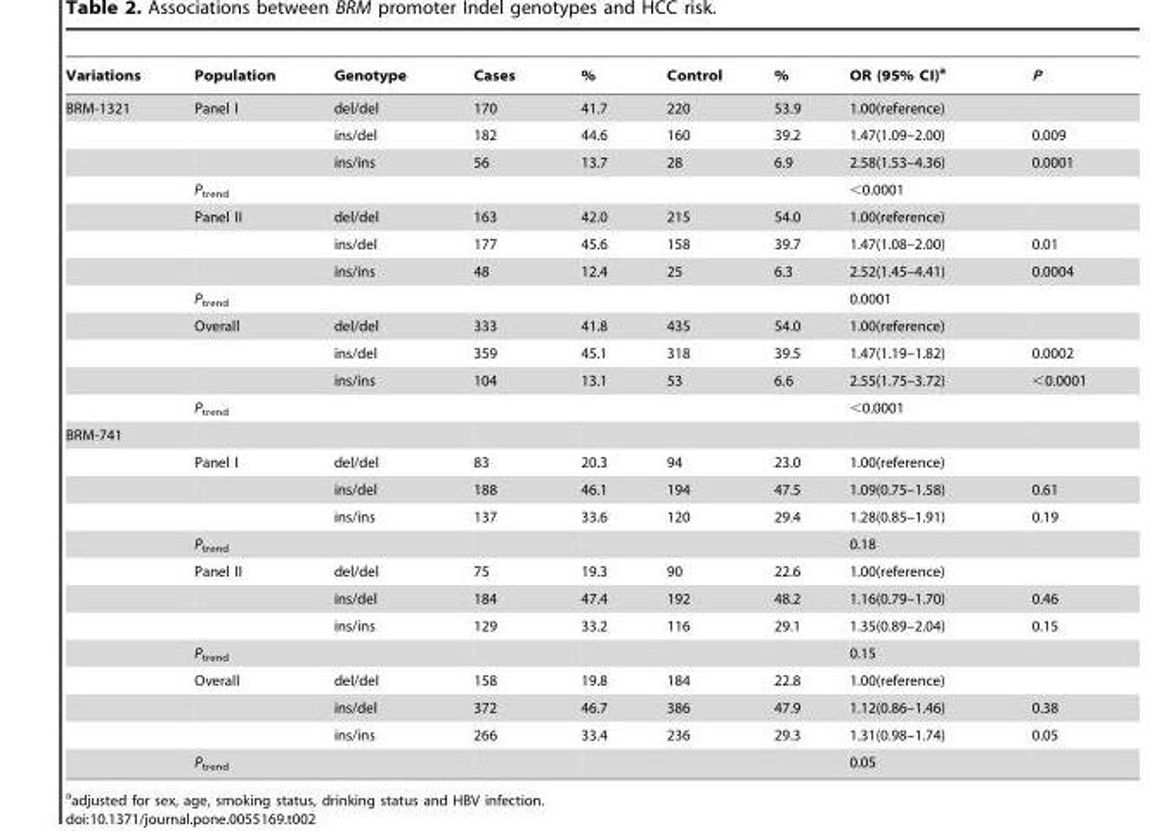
<table><thead><tr><td>Variations</td><td>Population</td><td>Genotype</td><td>Cases</td><td>%</td><td>Control</td><td>%</td><td>OR (95% CI)<sup>a</sup></td><td>P</td></tr></thead><tbody><tr><td rowspan="12">BRM-1321</td><td>Panel I</td><td>del/del</td><td>170</td><td>41.7</td><td>220</td><td>53.9</td><td>1.00(reference)</td><td></td></tr><tr><td></td><td>ins/del</td><td>182</td><td>44.6</td><td>160</td><td>39.2</td><td>1.47(1.09–2.00)</td><td>0.009</td></tr><tr><td></td><td>ins/ins</td><td>56</td><td>13.7</td><td>28</td><td>6.9</td><td>2.58(1.53–4.36)</td><td>0.0001</td></tr><tr><td>P<sub>trend</sub></td><td></td><td></td><td></td><td></td><td></td><td>&lt;0.0001</td><td></td></tr><tr><td>Panel II</td><td>del/del</td><td>163</td><td>42.0</td><td>215</td><td>54.0</td><td>1.00(reference)</td><td></td></tr><tr><td></td><td>ins/del</td><td>177</td><td>45.6</td><td>158</td><td>39.7</td><td>1.47(1.08–2.00)</td><td>0.01</td></tr><tr><td></td><td>ins/ins</td><td>48</td><td>12.4</td><td>25</td><td>6.3</td><td>2.52(1.45–4.41)</td><td>0.0004</td></tr><tr><td>P<sub>trend</sub></td><td></td><td></td><td></td><td></td><td></td><td>0.0001</td><td></td></tr><tr><td>Overall</td><td>del/del</td><td>333</td><td>41.8</td><td>435</td><td>54.0</td><td>1.00(reference)</td><td></td></tr><tr><td></td><td>ins/del</td><td>359</td><td>45.1</td><td>318</td><td>39.5</td><td>1.47(1.19–1.82)</td><td>0.0002</td></tr><tr><td></td><td>ins/ins</td><td>104</td><td>13.1</td><td>53</td><td>6.6</td><td>2.55(1.75–3.72)</td><td>&lt;0.0001</td></tr><tr><td>P<sub>trend</sub></td><td></td><td></td><td></td><td></td><td></td><td>&lt;0.0001</td><td></td></tr><tr><td colspan="9">BRM-741</td></tr><tr><td></td><td>Panel I</td><td>del/del</td><td>83</td><td>20.3</td><td>94</td><td>23.0</td><td>1.00(reference)</td><td></td></tr><tr><td></td><td></td><td>ins/del</td><td>188</td><td>46.1</td><td>194</td><td>47.5</td><td>1.09(0.75–1.58)</td><td>0.61</td></tr><tr><td></td><td></td><td>ins/ins</td><td>137</td><td>33.6</td><td>120</td><td>29.4</td><td>1.28(0.85–1.91)</td><td>0.19</td></tr><tr><td></td><td>P<sub>trend</sub></td><td></td><td></td><td></td><td></td><td></td><td>0.18</td><td></td></tr><tr><td></td><td>Panel II</td><td>del/del</td><td>75</td><td>19.3</td><td>90</td><td>22.6</td><td>1.00(reference)</td><td></td></tr><tr><td></td><td></td><td>ins/del</td><td>184</td><td>47.4</td><td>192</td><td>48.2</td><td>1.16(0.79–1.70)</td><td>0.46</td></tr><tr><td></td><td></td><td>ins/ins</td><td>129</td><td>33.2</td><td>116</td><td>29.1</td><td>1.35(0.89–2.04)</td><td>0.15</td></tr><tr><td></td><td>P<sub>trend</sub></td><td></td><td></td><td></td><td></td><td></td><td>0.15</td><td></td></tr><tr><td></td><td>Overall</td><td>del/del</td><td>158</td><td>19.8</td><td>184</td><td>22.8</td><td>1.00(reference)</td><td></td></tr><tr><td></td><td></td><td>ins/del</td><td>372</td><td>46.7</td><td>386</td><td>47.9</td><td>1.12(0.86–1.46)</td><td>0.38</td></tr><tr><td></td><td></td><td>ins/ins</td><td>266</td><td>33.4</td><td>236</td><td>29.3</td><td>1.31(0.98–1.74)</td><td>0.05</td></tr><tr><td></td><td>P<sub>trend</sub></td><td></td><td></td><td></td><td></td><td></td><td>0.05</td><td></td></tr></tbody></table>